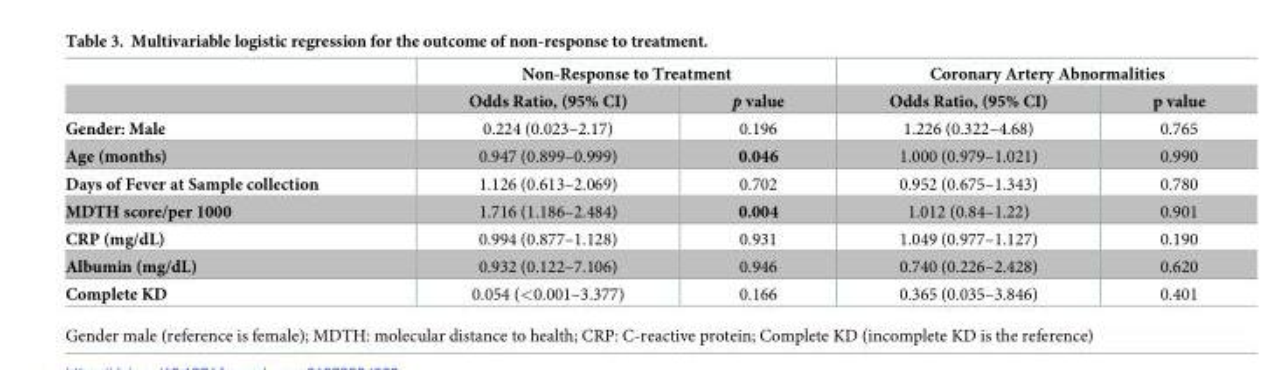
<table><thead><tr><td rowspan="2"></td><td colspan="2">Non-Response to Treatment</td><td colspan="2">Coronary Artery Abnormalities</td></tr><tr><td>Odds Ratio, (95% CI)</td><td>p value</td><td>Odds Ratio, (95% CI)</td><td>p value</td></tr></thead><tbody><tr><td>Gender: Male</td><td>0.224 (0.023–2.17)</td><td>0.196</td><td>1.226 (0.322–4.68)</td><td>0.765</td></tr><tr><td>Age (months)</td><td>0.947 (0.899–0.999)</td><td>0.046</td><td>1.000 (0.979–1.021)</td><td>0.990</td></tr><tr><td>Days of Fever at Sample collection</td><td>1.126 (0.613–2.069)</td><td>0.702</td><td>0.952 (0.675–1.343)</td><td>0.780</td></tr><tr><td>MDTH score/per 1000</td><td>1.716 (1.186–2.484)</td><td>0.004</td><td>1.012 (0.84–1.22)</td><td>0.901</td></tr><tr><td>CRP (mg/dL)</td><td>0.994 (0.877–1.128)</td><td>0.931</td><td>1.049 (0.977–1.127)</td><td>0.190</td></tr><tr><td>Albumin (mg/dL)</td><td>0.932 (0.122–7.106)</td><td>0.946</td><td>0.740 (0.226–2.428)</td><td>0.620</td></tr><tr><td>Complete KD</td><td>0.054 (&lt;0.001–3.377)</td><td>0.166</td><td>0.365 (0.035–3.846)</td><td>0.401</td></tr></tbody></table>